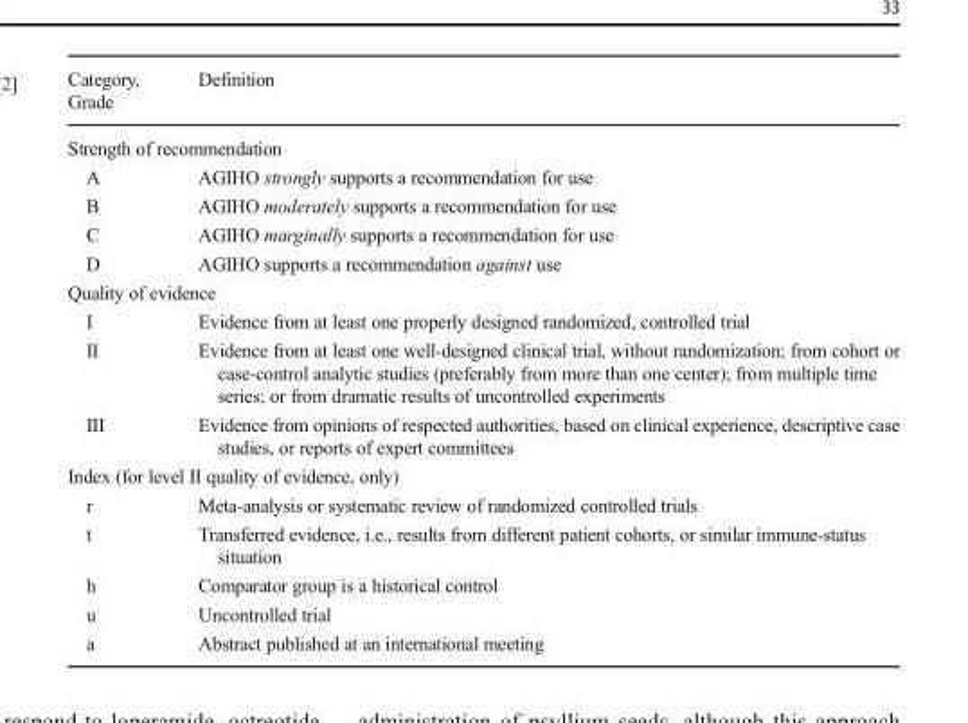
<table><thead><tr><td>Category, Grade</td><td>Definition</td></tr></thead><tbody><tr><td colspan="2">Strength of recommendation</td></tr><tr><td>A</td><td>AGIHO strongly supports a recommendation for use</td></tr><tr><td>B</td><td>AGIHO moderately supports a recommendation for use</td></tr><tr><td>C</td><td>AGIHO marginally supports a recommendation for use</td></tr><tr><td>D</td><td>AGIHO supports a recommendation against use</td></tr><tr><td colspan="2">Quality of evidence</td></tr><tr><td>I</td><td>Evidence from at least one properly designed randomized, controlled trial</td></tr><tr><td>II</td><td>Evidence from at least one well-designed clinical trial, without randomization; from cohort or case-control analytic studies (preferably from more than one center); from multiple time series; or from dramatic results of uncontrolled experiments</td></tr><tr><td>III</td><td>Evidence from opinions of respected authorities, based on clinical experience, descriptive case studies, or reports of expert committees</td></tr><tr><td colspan="2">Index (for level II quality of evidence, only)</td></tr><tr><td>r</td><td>Meta-analysis or systematic review of randomized controlled trials</td></tr><tr><td>t</td><td>Transferred evidence, i.e., results from different patient cohorts, or similar immune-status situation</td></tr><tr><td>h</td><td>Comparator group is a historical control</td></tr><tr><td>u</td><td>Uncontrolled trial</td></tr><tr><td>a</td><td>Abstract published at an international meeting</td></tr></tbody></table>